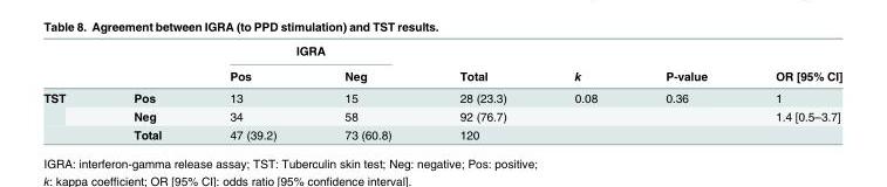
<table><thead><tr><td rowspan="2"></td><td rowspan="2"></td><td colspan="2">IGRA</td><td rowspan="2">Total</td><td rowspan="2">k</td><td rowspan="2">P-value</td><td rowspan="2">OR [95% CI]</td></tr><tr><td>Pos</td><td>Neg</td></tr></thead><tbody><tr><td rowspan="3">TST</td><td>Pos</td><td>13</td><td>15</td><td>28 (23.3)</td><td>0.08</td><td>0.36</td><td>1</td></tr><tr><td>Neg</td><td>34</td><td>58</td><td>92 (76.7)</td><td></td><td></td><td>1.4 [0.5–3.7]</td></tr><tr><td>Total</td><td>47 (39.2)</td><td>73 (60.8)</td><td>120</td><td></td><td></td><td></td></tr></tbody></table>